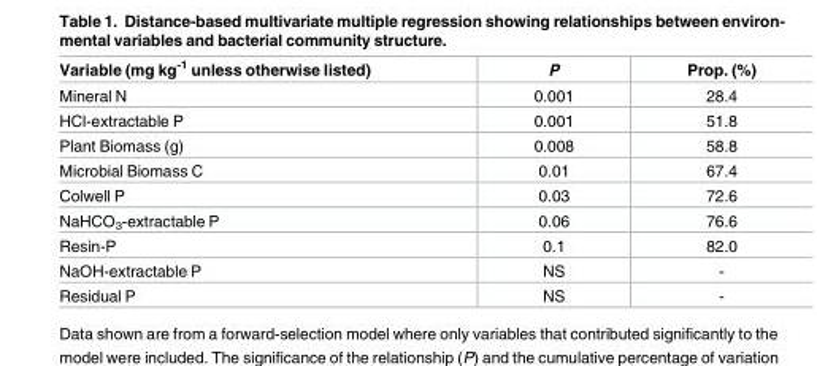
<table><thead><tr><td>Variable (mg kg<sup>-1</sup> unless otherwise listed)</td><td>P</td><td>Prop. (%)</td></tr></thead><tbody><tr><td>Mineral N</td><td>0.001</td><td>28.4</td></tr><tr><td>HCl-extractable P</td><td>0.001</td><td>51.8</td></tr><tr><td>Plant Biomass (g)</td><td>0.008</td><td>58.8</td></tr><tr><td>Microbial Biomass C</td><td>0.01</td><td>67.4</td></tr><tr><td>Colwell P</td><td>0.03</td><td>72.6</td></tr><tr><td>NaHCO<sub>3</sub>-extractable P</td><td>0.06</td><td>76.6</td></tr><tr><td>Resin-P</td><td>0.1</td><td>82.0</td></tr><tr><td>NaOH-extractable P</td><td>NS</td><td>-</td></tr><tr><td>Residual P</td><td>NS</td><td>-</td></tr></tbody></table>